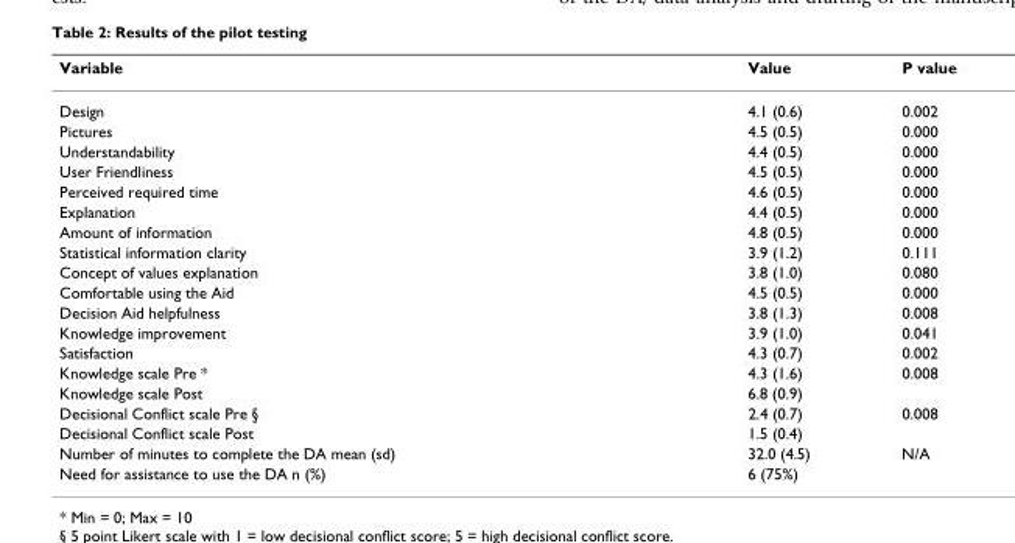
<table><thead><tr><td>Variable</td><td>Value</td><td>P value</td></tr></thead><tbody><tr><td>Design</td><td>4.1 (0.6)</td><td>0.002</td></tr><tr><td>Pictures</td><td>4.5 (0.5)</td><td>0.000</td></tr><tr><td>Understandability</td><td>4.4 (0.5)</td><td>0.000</td></tr><tr><td>User Friendliness</td><td>4.5 (0.5)</td><td>0.000</td></tr><tr><td>Perceived required time</td><td>4.6 (0.5)</td><td>0.000</td></tr><tr><td>Explanation</td><td>4.4 (0.5)</td><td>0.000</td></tr><tr><td>Amount of information</td><td>4.8 (0.5)</td><td>0.000</td></tr><tr><td>Statistical information clarity</td><td>3.9 (1.2)</td><td>0.111</td></tr><tr><td>Concept of values explanation</td><td>3.8 (1.0)</td><td>0.080</td></tr><tr><td>Comfortable using the Aid</td><td>4.5 (0.5)</td><td>0.000</td></tr><tr><td>Decision Aid helpfulness</td><td>3.8 (1.3)</td><td>0.008</td></tr><tr><td>Knowledge improvement</td><td>3.9 (1.0)</td><td>0.041</td></tr><tr><td>Satisfaction</td><td>4.3 (0.7)</td><td>0.002</td></tr><tr><td>Knowledge scale Pre *</td><td>4.3 (1.6)</td><td>0.008</td></tr><tr><td>Knowledge scale Post</td><td>6.8 (0.9)</td><td></td></tr><tr><td>Decisional Conflict scale Pre §</td><td>2.4 (0.7)</td><td>0.008</td></tr><tr><td>Decisional Conflict scale Post</td><td>1.5 (0.4)</td><td></td></tr><tr><td>Number of minutes to complete the DA mean (sd)</td><td>32.0 (4.5)</td><td>N/A</td></tr><tr><td>Need for assistance to use the DA n (%)</td><td>6 (75%)</td><td></td></tr></tbody></table>